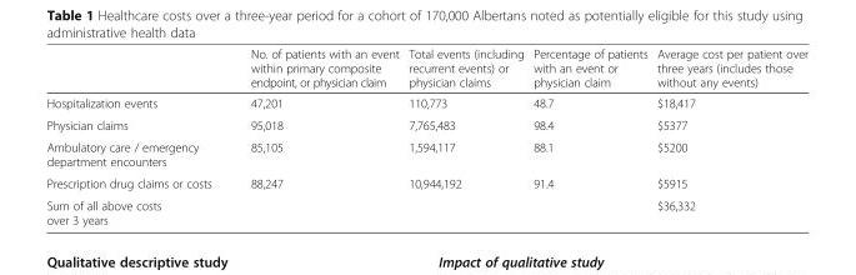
<table><thead><tr><td></td><td>No. of patients with an event within primary composite endpoint, or physician claim</td><td>Total events (including recurrent events) or physician claims</td><td>Percentage of patients with an event or physician claim</td><td>Average cost per patient over three years (includes those without any events)</td></tr></thead><tbody><tr><td>Hospitalization events</td><td>47,201</td><td>110,773</td><td>48.7</td><td>$18,417</td></tr><tr><td>Physician claims</td><td>95,018</td><td>7,765,483</td><td>98.4</td><td>$5377</td></tr><tr><td>Ambulatory care / emergency department encounters</td><td>85,105</td><td>1,594,117</td><td>88.1</td><td>$5200</td></tr><tr><td>Prescription drug claims or costs</td><td>88,247</td><td>10,944,192</td><td>91.4</td><td>$5915</td></tr><tr><td>Sum of all above costs over 3 years</td><td></td><td></td><td></td><td>$36,332</td></tr></tbody></table>